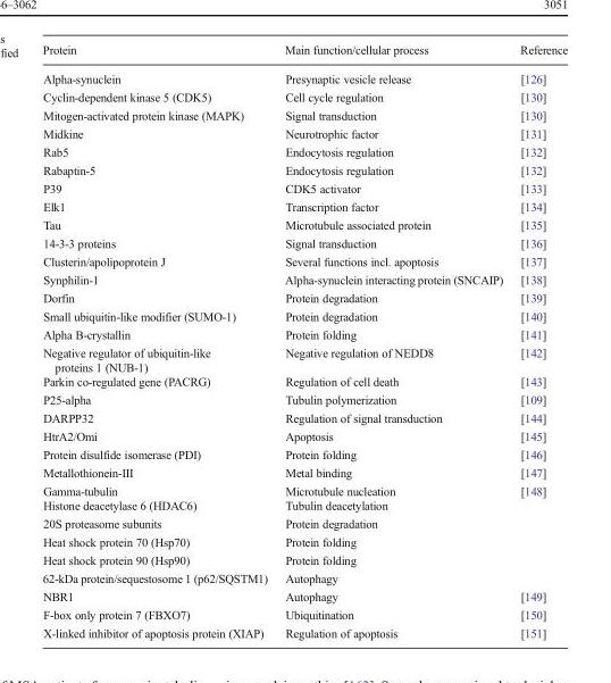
<table><thead><tr><td>Protein</td><td>Main function/cellular process</td><td>Reference</td></tr></thead><tbody><tr><td>Alpha-synuclein</td><td>Presynaptic vesicle release</td><td>[126]</td></tr><tr><td>Cyclin-dependent kinase 5 (CDK5)</td><td>Cell cycle regulation</td><td>[130]</td></tr><tr><td>Mitogen-activated protein kinase (MAPK)</td><td>Signal transduction</td><td>[130]</td></tr><tr><td>Midkine</td><td>Neurotrophic factor</td><td>[131]</td></tr><tr><td>Rab5</td><td>Endocytosis regulation</td><td>[132]</td></tr><tr><td>Rabaptin-5</td><td>Endocytosis regulation</td><td>[132]</td></tr><tr><td>P39</td><td>CDK5 activator</td><td>[133]</td></tr><tr><td>Elk1</td><td>Transcription factor</td><td>[134]</td></tr><tr><td>Tau</td><td>Microtubule associated protein</td><td>[135]</td></tr><tr><td>14-3-3 proteins</td><td>Signal transduction</td><td>[136]</td></tr><tr><td>Clusterin/apolipoprotein J</td><td>Several functions incl. apoptosis</td><td>[137]</td></tr><tr><td>Synphilin-1</td><td>Alpha-synuclein interacting protein (SNCAIP)</td><td>[138]</td></tr><tr><td>Dorfin</td><td>Protein degradation</td><td>[139]</td></tr><tr><td>Small ubiquitin-like modifier (SUMO-1)</td><td>Protein degradation</td><td>[140]</td></tr><tr><td>Alpha B-crystallin</td><td>Protein folding</td><td>[141]</td></tr><tr><td>Negative regulator of ubiquitin-like proteins 1 (NUB-1)</td><td>Negative regulation of NEDD8</td><td>[142]</td></tr><tr><td>Parkin co-regulated gene (PACRG)</td><td>Regulation of cell death</td><td>[143]</td></tr><tr><td>P25-alpha</td><td>Tubulin polymerization</td><td>[109]</td></tr><tr><td>DARPP32</td><td>Regulation of signal transduction</td><td>[144]</td></tr><tr><td>HtrA2/Omi</td><td>Apoptosis</td><td>[145]</td></tr><tr><td>Protein disulfide isomerase (PDI)</td><td>Protein folding</td><td>[146]</td></tr><tr><td>Metallothionein-III</td><td>Metal binding</td><td>[147]</td></tr><tr><td>Gamma-tubulin</td><td>Microtubule nucleation</td><td rowspan="6">[148]</td></tr><tr><td>Histone deacetylase 6 (HDAC6)</td><td>Tubulin deacetylation</td></tr><tr><td>20S proteasome subunits</td><td>Protein degradation</td></tr><tr><td>Heat shock protein 70 (Hsp70)</td><td>Protein folding</td></tr><tr><td>Heat shock protein 90 (Hsp90)</td><td>Protein folding</td></tr><tr><td>62-kDa protein/sequestosome 1 (p62/SQSTM1)</td><td>Autophagy</td></tr><tr><td>NBR1</td><td>Autophagy</td><td>[149]</td></tr><tr><td>F-box only protein 7 (FBXO7)</td><td>Ubiquitination</td><td>[150]</td></tr><tr><td>X-linked inhibitor of apoptosis protein (XIAP)</td><td>Regulation of apoptosis</td><td>[151]</td></tr></tbody></table>